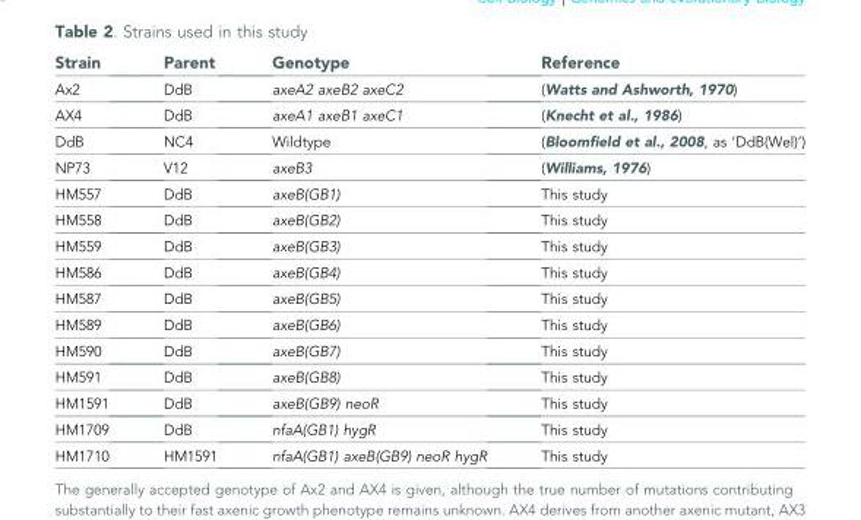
<table><thead><tr><td>Strain</td><td>Parent</td><td>Genotype</td><td>Reference</td></tr></thead><tbody><tr><td>Ax2</td><td>DdB</td><td>axeA2 axeB2 axeC2</td><td>(Watts and Ashworth, 1970)</td></tr><tr><td>AX4</td><td>DdB</td><td>axeA1 axeB1 axeC1</td><td>(Knecht et al., 1986)</td></tr><tr><td>DdB</td><td>NC4</td><td>Wildtype</td><td>(Bloomfield et al., 2008, as ‘DdB(Wel)’)</td></tr><tr><td>NP73</td><td>V12</td><td>axeB3</td><td>(Williams, 1976)</td></tr><tr><td>HM557</td><td>DdB</td><td>axeB(GB1)</td><td>This study</td></tr><tr><td>HM558</td><td>DdB</td><td>axeB(GB2)</td><td>This study</td></tr><tr><td>HM559</td><td>DdB</td><td>axeB(GB3)</td><td>This study</td></tr><tr><td>HM586</td><td>DdB</td><td>axeB(GB4)</td><td>This study</td></tr><tr><td>HM587</td><td>DdB</td><td>axeB(GB5)</td><td>This study</td></tr><tr><td>HM589</td><td>DdB</td><td>axeB(GB6)</td><td>This study</td></tr><tr><td>HM590</td><td>DdB</td><td>axeB(GB7)</td><td>This study</td></tr><tr><td>HM591</td><td>DdB</td><td>axeB(GB8)</td><td>This study</td></tr><tr><td>HM1591</td><td>DdB</td><td>axeB(GB9) neoR</td><td>This study</td></tr><tr><td>HM1709</td><td>DdB</td><td>nfaA(GB1) hygR</td><td>This study</td></tr><tr><td>HM1710</td><td>HM1591</td><td>nfaA(GB1) axeB(GB9) neoR hygR</td><td>This study</td></tr></tbody></table>